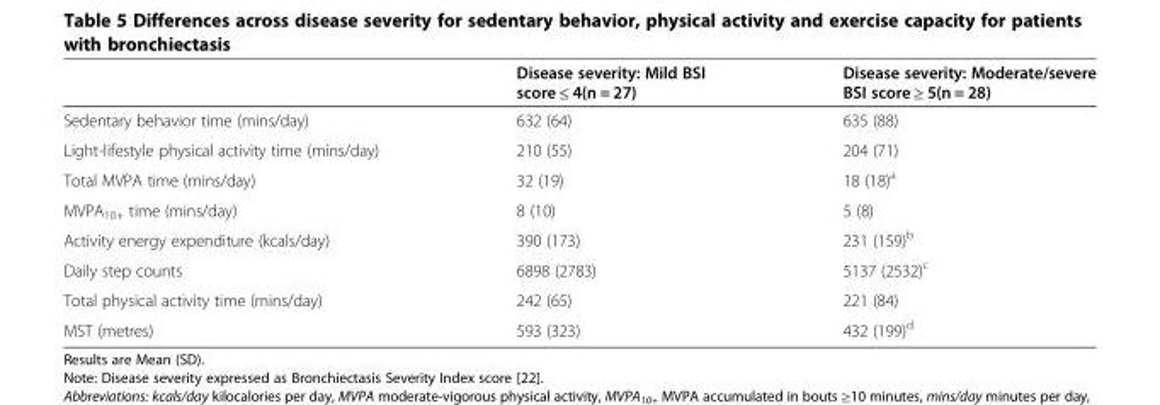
<table><thead><tr><td></td><td>Disease severity: Mild BSI score ≤ 4(n = 27)</td><td>Disease severity: Moderate/severe BSI score ≥ 5(n = 28)</td></tr></thead><tbody><tr><td>Sedentary behavior time (mins/day)</td><td>632 (64)</td><td>635 (88)</td></tr><tr><td>Light-lifestyle physical activity time (mins/day)</td><td>210 (55)</td><td>204 (71)</td></tr><tr><td>Total MVPA time (mins/day)</td><td>32 (19)</td><td>18 (18)<sup>a</sup></td></tr><tr><td>MVPA<sub>10+</sub> time (mins/day)</td><td>8 (10)</td><td>5 (8)</td></tr><tr><td>Activity energy expenditure (kcals/day)</td><td>390 (173)</td><td>231 (159)<sup>b</sup></td></tr><tr><td>Daily step counts</td><td>6898 (2783)</td><td>5137 (2532)<sup>c</sup></td></tr><tr><td>Total physical activity time (mins/day)</td><td>242 (65)</td><td>221 (84)</td></tr><tr><td>MST (metres)</td><td>593 (323)</td><td>432 (199)<sup>d</sup></td></tr></tbody></table>